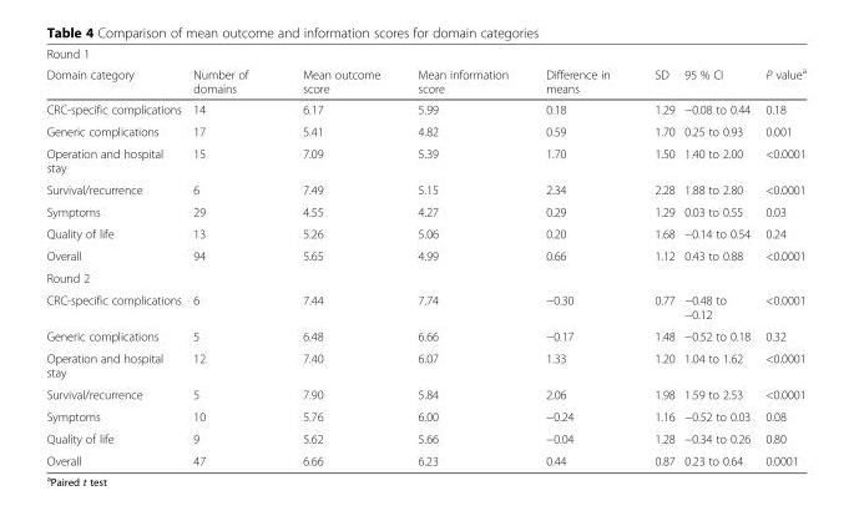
<table><thead><tr><td rowspan="2">Round 1 Domain category</td><td rowspan="2">Number of domains</td><td rowspan="2">Mean outcome score</td><td rowspan="2">Mean information score</td><td rowspan="2">Difference in means</td><td rowspan="2">SD</td><td rowspan="2">95 % CI</td><td rowspan="2">P value<sup>a</sup></td></tr><tr></tr></thead><tbody><tr><td>CRC-specific complications</td><td>14</td><td>6.17</td><td>5.99</td><td>0.18</td><td>1.29</td><td>−0.08 to 0.44</td><td>0.18</td></tr><tr><td>Generic complications</td><td>17</td><td>5.41</td><td>4.82</td><td>0.59</td><td>1.70</td><td>0.25 to 0.93</td><td>0.001</td></tr><tr><td>Operation and hospital stay</td><td>15</td><td>7.09</td><td>5.39</td><td>1.70</td><td>1.50</td><td>1.40 to 2.00</td><td>&lt;0.0001</td></tr><tr><td>Survival/recurrence</td><td>6</td><td>7.49</td><td>5.15</td><td>2.34</td><td>2.28</td><td>1.88 to 2.80</td><td>&lt;0.0001</td></tr><tr><td>Symptoms</td><td>29</td><td>4.55</td><td>4.27</td><td>0.29</td><td>1.29</td><td>0.03 to 0.55</td><td>0.03</td></tr><tr><td>Quality of life</td><td>13</td><td>5.26</td><td>5.06</td><td>0.20</td><td>1.68</td><td>−0.14 to 0.54</td><td>0.24</td></tr><tr><td>Overall</td><td>94</td><td>5.65</td><td>4.99</td><td>0.66</td><td>1.12</td><td>0.43 to 0.88</td><td>&lt;0.0001</td></tr><tr><td colspan="8">Round 2</td></tr><tr><td>CRC-specific complications</td><td>6</td><td>7.44</td><td>7.74</td><td>−0.30</td><td>0.77</td><td>−0.48 to −0.12</td><td>&lt;0.0001</td></tr><tr><td>Generic complications</td><td>5</td><td>6.48</td><td>6.66</td><td>−0.17</td><td>1.48</td><td>−0.52 to 0.18</td><td>0.32</td></tr><tr><td>Operation and hospital stay</td><td>12</td><td>7.40</td><td>6.07</td><td>1.33</td><td>1.20</td><td>1.04 to 1.62</td><td>&lt;0.0001</td></tr><tr><td>Survival/recurrence</td><td>5</td><td>7.90</td><td>5.84</td><td>2.06</td><td>1.98</td><td>1.59 to 2.53</td><td>&lt;0.0001</td></tr><tr><td>Symptoms</td><td>10</td><td>5.76</td><td>6.00</td><td>−0.24</td><td>1.16</td><td>−0.52 to 0.03</td><td>0.08</td></tr><tr><td>Quality of life</td><td>9</td><td>5.62</td><td>5.66</td><td>−0.04</td><td>1.28</td><td>−0.34 to 0.26</td><td>0.80</td></tr><tr><td>Overall</td><td>47</td><td>6.66</td><td>6.23</td><td>0.44</td><td>0.87</td><td>0.23 to 0.64</td><td>0.0001</td></tr></tbody></table>